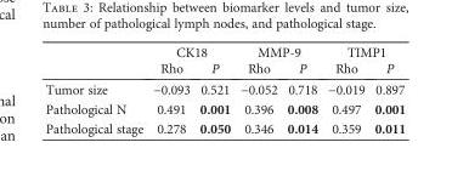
<table><thead><tr><td rowspan="2"></td><td colspan="2">CK18</td><td colspan="2">MMP-9</td><td colspan="2">TIMP1</td></tr><tr><td>Rho</td><td>P</td><td>Rho</td><td>P</td><td>Rho</td><td>P</td></tr></thead><tbody><tr><td>Tumor size</td><td>−0.093</td><td>0.521</td><td>−0.052</td><td>0.718</td><td>−0.019</td><td>0.897</td></tr><tr><td>Pathological N</td><td>0.491</td><td>0.001</td><td>0.396</td><td>0.008</td><td>0.497</td><td>0.001</td></tr><tr><td>Pathological stage</td><td>0.278</td><td>0.050</td><td>0.346</td><td>0.014</td><td>0.359</td><td>0.011</td></tr></tbody></table>